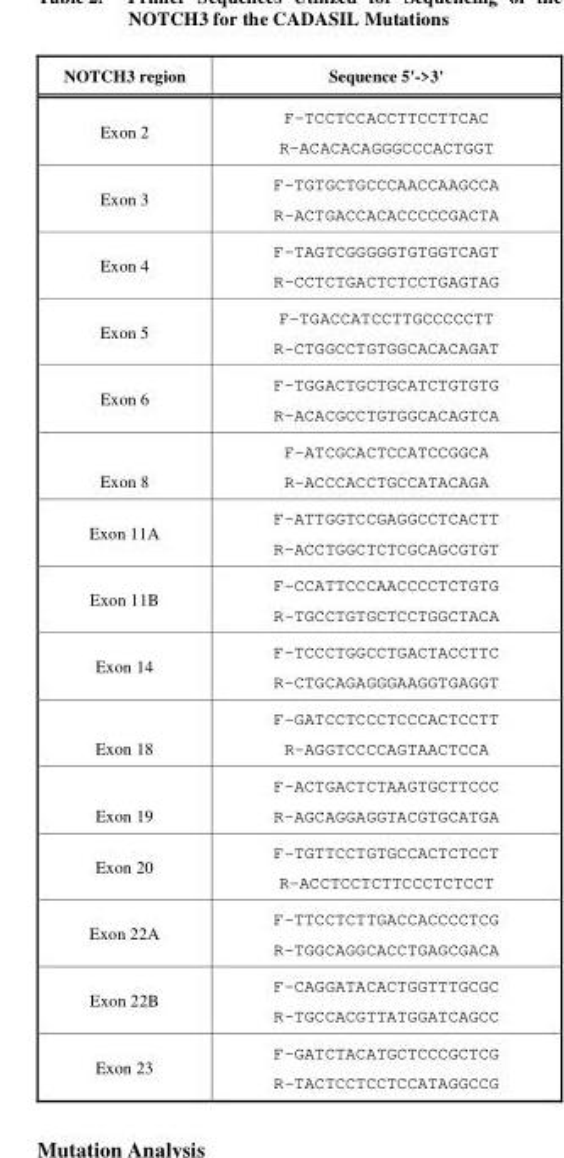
<table><thead><tr><td>NOTCH3 region</td><td>Sequence 5&#x27;-&gt;3&#x27;</td></tr></thead><tbody><tr><td>Exon 2</td><td>F-TCCTCCACCTTCCTTCAC R-ACACACAGGGCCCACTGGT</td></tr><tr><td>Exon 3</td><td>F-TGTGCTGCCCAACCAAGCCA R-ACTGACCACACCCCCGACTA</td></tr><tr><td>Exon 4</td><td>F-TAGTCGGGGGTGTGGTCAGT R-CCTCTGACTCTCCTGAGTAG</td></tr><tr><td>Exon 5</td><td>F-TGACCATCCTTGCCCCCTT R-CTGGCCTGTGGCACACAGAT</td></tr><tr><td>Exon 6</td><td>F-TGGACTGCTGCATCTGTGTG R-ACACGCCTGTGGCACAGTCA</td></tr><tr><td>Exon 8</td><td>F-ATCGCACTCCATCCGGCA R–ACCCACCTGCCATACAGA</td></tr><tr><td>Exon 11A</td><td>F-ATTGGTCCGAGGCCTCACTT R–ACCTGGCTCTCGCAGCGTGT</td></tr><tr><td>Exon 11B</td><td>F-CCATTCCCAACCCCTCTGTG R–TGCCTGTGCTCCTGGCTACA</td></tr><tr><td>Exon 14</td><td>F-TCCCTGGCCTGACTACCTTC R–CTGCAGAGGGAAGGTGAGGT</td></tr><tr><td>Exon 18</td><td>F-GATCCTCCCTCCCACTCCTT R–AGGTCCCCAGTAACTCCA</td></tr><tr><td>Exon 19</td><td>F-ACTGACTCTAAGTGCTTCCC R–AGCAGGAGGTACGTGCATGA</td></tr><tr><td>Exon 20</td><td>F-TGTTCCTGTGCCACTCTCCT R–ACCTCCTCTTCCCTCTCCT</td></tr><tr><td>Exon 22A</td><td>F-TTCCTCTTGACCACCCCTCG R–TGGCAGGCACCTGAGCGACA</td></tr><tr><td>Exon 22B</td><td>F-CAGGATACACTGGTTTGCGC R–TGCCACGTTATGGATCAGCC</td></tr><tr><td>Exon 23</td><td>F-GATCTACATGCTCCCGCTCG R–TACTCCTCCTCCATAGGCCG</td></tr></tbody></table>